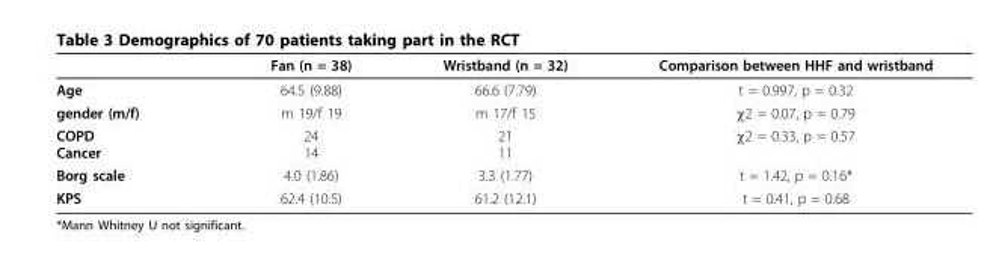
<table><thead><tr><td></td><td>Fan (n = 38)</td><td>Wristband (n = 32)</td><td>Comparison between HHF and wristband</td></tr></thead><tbody><tr><td>Age</td><td>64.5 (9.88)</td><td>66.6 (7.79)</td><td>t = 0.997, p = 0.32</td></tr><tr><td>gender (m/f)</td><td>m 19/f 19</td><td>m 17/f 15</td><td>χ2 = 0.07, p = 0.79</td></tr><tr><td>COPD Cancer</td><td>24 14</td><td>21 11</td><td>χ2 = 0.33, p = 0.57</td></tr><tr><td>Borg scale</td><td>4.0 (1.86)</td><td>3.3 (1.77)</td><td>t = 1.42, p = 0.16*</td></tr><tr><td>KPS</td><td>62.4 (10.5)</td><td>61.2 (12.1)</td><td>t = 0.41, p = 0.68</td></tr></tbody></table>